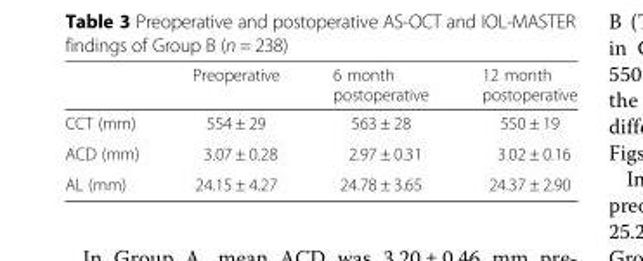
<table><thead><tr><td></td><td>Preoperative</td><td>6 month postoperative</td><td>12 month postoperative</td></tr></thead><tbody><tr><td>CCT (mm)</td><td>554 ± 29</td><td>563 ± 28</td><td>550 ± 19</td></tr><tr><td>ACD (mm)</td><td>3.07 ± 0.28</td><td>2.97 ± 0.31</td><td>3.02 ± 0.16</td></tr><tr><td>AL (mm)</td><td>24.15 ± 4.27</td><td>24.78 ± 3.65</td><td>24.37 ± 2.90</td></tr></tbody></table>